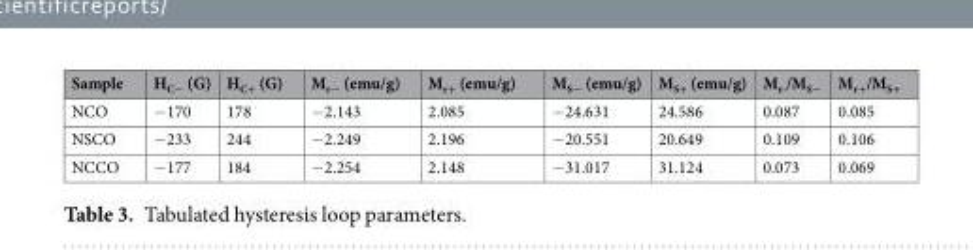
<table><thead><tr><td>Sample</td><td>H<sub>C−</sub> (G)</td><td>H<sub>C+</sub> (G)</td><td>M<sub>r−</sub> (emu/g)</td><td>M<sub>r+</sub> (emu/g)</td><td>M<sub>S−</sub> (emu/g)</td><td>M<sub>S+</sub> (emu/g)</td><td>M<sub>r-</sub>/M<sub>S−</sub></td><td>M<sub>r+</sub>/M<sub>S+</sub></td></tr></thead><tbody><tr><td>NCO</td><td>−170</td><td>178</td><td>−2.143</td><td>2.085</td><td>−24.631</td><td>24.586</td><td>0.087</td><td>0.085</td></tr><tr><td>NSCO</td><td>−233</td><td>244</td><td>−2.249</td><td>2.196</td><td>−20.551</td><td>20.649</td><td>0.109</td><td>0.106</td></tr><tr><td>NCCO</td><td>−177</td><td>184</td><td>−2.254</td><td>2.148</td><td>−31.017</td><td>31.124</td><td>0.073</td><td>0.069</td></tr></tbody></table>